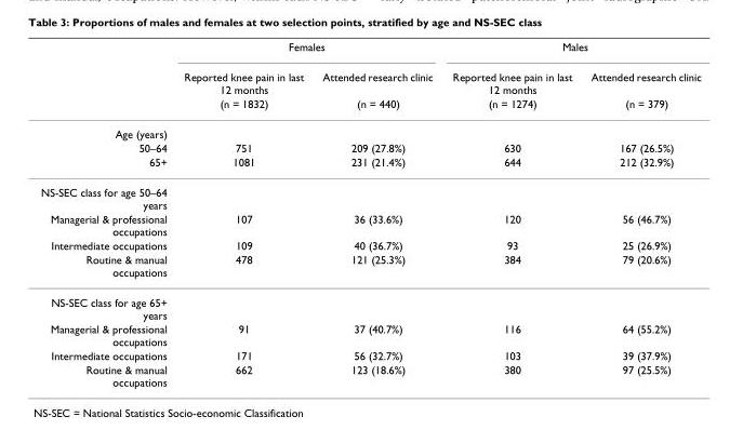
<table><thead><tr><td rowspan="3"></td><td colspan="2">Females</td><td colspan="2">Males</td></tr><tr><td rowspan="2">Reported knee pain in last 12 months (n = 1832)</td><td rowspan="2">Attended research clinic (n = 440)</td><td rowspan="2">Reported knee pain in last 12 months (n = 1274)</td><td rowspan="2">Attended research clinic (n = 379)</td></tr><tr></tr></thead><tbody><tr><td colspan="5">Age (years)</td></tr><tr><td>50–64</td><td>751</td><td>209 (27.8%)</td><td>630</td><td>167 (26.5%)</td></tr><tr><td>65+</td><td>1081</td><td>231 (21.4%)</td><td>644</td><td>212 (32.9%)</td></tr><tr><td colspan="5">NS-SEC class for age 50–64 years</td></tr><tr><td>Managerial &amp; professional occupations</td><td>107</td><td>36 (33.6%)</td><td>120</td><td>56 (46.7%)</td></tr><tr><td>Intermediate occupations</td><td>109</td><td>40 (36.7%)</td><td>93</td><td>25 (26.9%)</td></tr><tr><td>Routine &amp; manual occupations</td><td>478</td><td>121 (25.3%)</td><td>384</td><td>79 (20.6%)</td></tr><tr><td colspan="5">NS-SEC class for age 65+ years</td></tr><tr><td>Managerial &amp; professional occupations</td><td>91</td><td>37 (40.7%)</td><td>116</td><td>64 (55.2%)</td></tr><tr><td>Intermediate occupations</td><td>171</td><td>56 (32.7%)</td><td>103</td><td>39 (37.9%)</td></tr><tr><td>Routine &amp; manual occupations</td><td>662</td><td>123 (18.6%)</td><td>380</td><td>97 (25.5%)</td></tr></tbody></table>